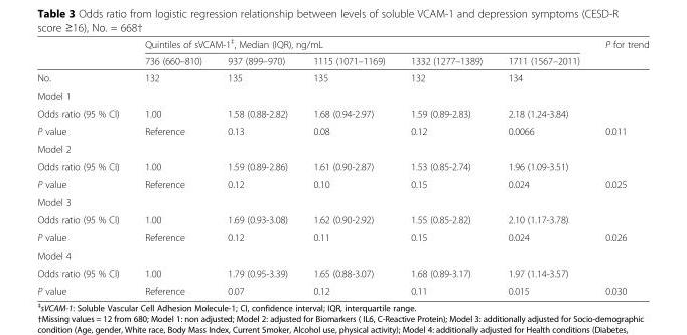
<table><thead><tr><td rowspan="2"></td><td colspan="5">Quintiles of sVCAM-1<sup>‡</sup>, Median (IQR), ng/mL</td><td rowspan="2">P for trend</td></tr><tr><td>736 (660–810)</td><td>937 (899–970)</td><td>1115 (1071–1169)</td><td>1332 (1277–1389)</td><td>1711 (1567–2011)</td></tr></thead><tbody><tr><td>No.</td><td>132</td><td>135</td><td>135</td><td>132</td><td>134</td><td></td></tr><tr><td colspan="7">Model 1</td></tr><tr><td>Odds ratio (95 % CI)</td><td>1.00</td><td>1.58 (0.88-2.82)</td><td>1.68 (0.94-2.97)</td><td>1.59 (0.89-2.83)</td><td>2.18 (1.24-3.84)</td><td></td></tr><tr><td>P value</td><td>Reference</td><td>0.13</td><td>0.08</td><td>0.12</td><td>0.0066</td><td>0.011</td></tr><tr><td colspan="7">Model 2</td></tr><tr><td>Odds ratio (95 % CI)</td><td>1.00</td><td>1.59 (0.89-2.86)</td><td>1.61 (0.90-2.87)</td><td>1.53 (0.85-2.74)</td><td>1.96 (1.09-3.51)</td><td></td></tr><tr><td>P value</td><td>Reference</td><td>0.12</td><td>0.10</td><td>0.15</td><td>0.024</td><td>0.025</td></tr><tr><td colspan="7">Model 3</td></tr><tr><td>Odds ratio (95 % CI)</td><td>1.00</td><td>1.69 (0.93-3.08)</td><td>1.62 (0.90-2.92)</td><td>1.55 (0.85-2.82)</td><td>2.10 (1.17-3.78)</td><td></td></tr><tr><td>P value</td><td>Reference</td><td>0.12</td><td>0.11</td><td>0.15</td><td>0.024</td><td>0.026</td></tr><tr><td colspan="7">Model 4</td></tr><tr><td>Odds ratio (95 % CI)</td><td>1.00</td><td>1.79 (0.95-3.39)</td><td>1.65 (0.88-3.07)</td><td>1.68 (0.89-3.17)</td><td>1.97 (1.14-3.57)</td><td></td></tr><tr><td>P value</td><td>Reference</td><td>0.07</td><td>0.12</td><td>0.11</td><td>0.015</td><td>0.030</td></tr></tbody></table>